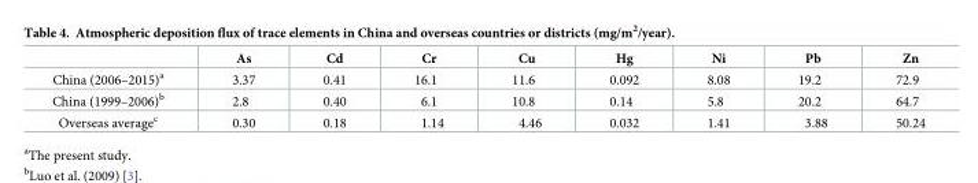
<table><thead><tr><td></td><td>As</td><td>Cd</td><td>Cr</td><td>Cu</td><td>Hg</td><td>Ni</td><td>Pb</td><td>Zn</td></tr></thead><tbody><tr><td>China (2006–2015)<sup>a</sup></td><td>3.37</td><td>0.41</td><td>16.1</td><td>11.6</td><td>0.092</td><td>8.08</td><td>19.2</td><td>72.9</td></tr><tr><td>China (1999–2006)<sup>b</sup></td><td>2.8</td><td>0.40</td><td>6.1</td><td>10.8</td><td>0.14</td><td>5.8</td><td>20.2</td><td>64.7</td></tr><tr><td>Overseas average<sup>c</sup></td><td>0.30</td><td>0.18</td><td>1.14</td><td>4.46</td><td>0.032</td><td>1.41</td><td>3.88</td><td>50.24</td></tr></tbody></table>